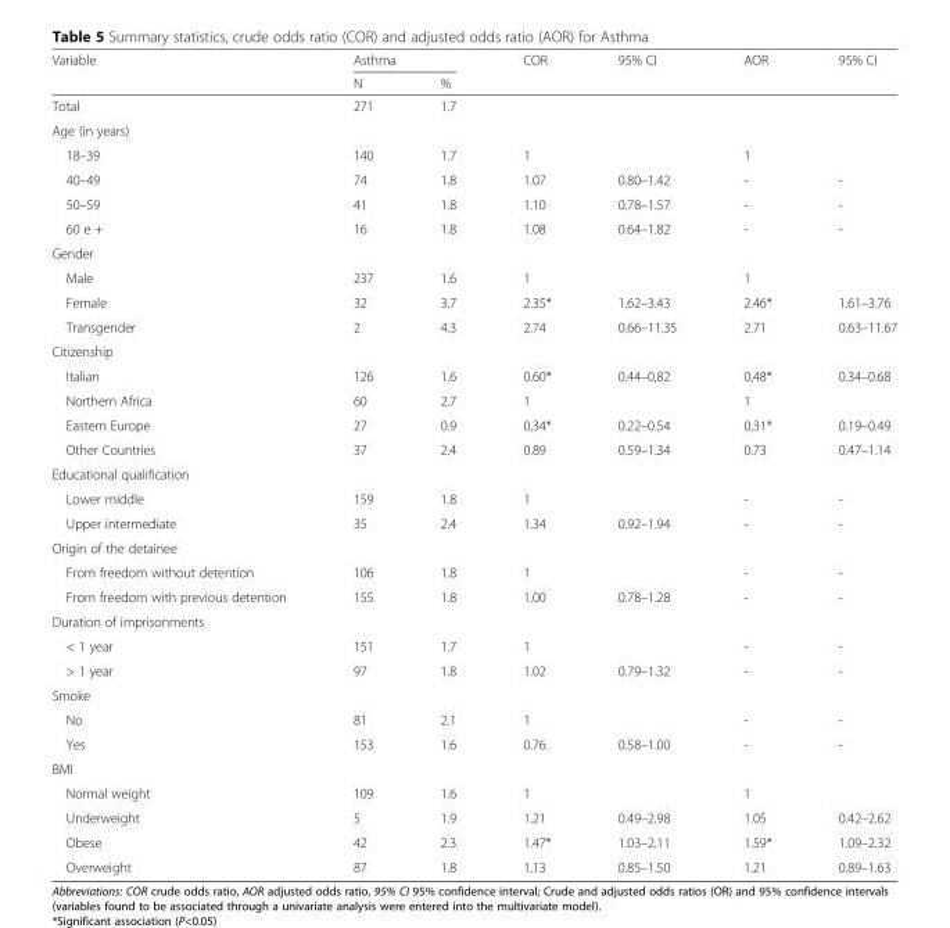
<table><thead><tr><td rowspan="2">Variable</td><td colspan="2">Asthma</td><td rowspan="2">COR</td><td rowspan="2">95% CI</td><td rowspan="2">AOR</td><td rowspan="2">95% CI</td></tr><tr><td>N</td><td>%</td></tr></thead><tbody><tr><td>Total</td><td>271</td><td>1.7</td><td></td><td></td><td></td><td></td></tr><tr><td colspan="7">Age (in years)</td></tr><tr><td>18–39</td><td>140</td><td>1.7</td><td>1</td><td></td><td>1</td><td></td></tr><tr><td>40–49</td><td>74</td><td>1.8</td><td>1.07</td><td>0.80–1.42</td><td>-</td><td>-</td></tr><tr><td>50–59</td><td>41</td><td>1.8</td><td>1.10</td><td>0.78–1.57</td><td>-</td><td>-</td></tr><tr><td>60 e +</td><td>16</td><td>1.8</td><td>1.08</td><td>0.64–1.82</td><td>-</td><td>-</td></tr><tr><td colspan="7">Gender</td></tr><tr><td>Male</td><td>237</td><td>1.6</td><td>1</td><td></td><td>1</td><td></td></tr><tr><td>Female</td><td>32</td><td>3.7</td><td>2.35*</td><td>1.62–3.43</td><td>2.46*</td><td>1.61–3.76</td></tr><tr><td>Transgender</td><td>2</td><td>4.3</td><td>2.74</td><td>0.66–11.35</td><td>2.71</td><td>0.63–11.67</td></tr><tr><td colspan="7">Citizenship</td></tr><tr><td>Italian</td><td>126</td><td>1.6</td><td>0.60*</td><td>0.44–0,82</td><td>0,48*</td><td>0.34–0.68</td></tr><tr><td>Northern Africa</td><td>60</td><td>2.7</td><td>1</td><td></td><td>1</td><td></td></tr><tr><td>Eastern Europe</td><td>27</td><td>0.9</td><td>0,34*</td><td>0.22–0.54</td><td>0,31*</td><td>0.19–0.49</td></tr><tr><td>Other Countries</td><td>37</td><td>2.4</td><td>0.89</td><td>0.59–1.34</td><td>0.73</td><td>0.47–1.14</td></tr><tr><td colspan="7">Educational qualification</td></tr><tr><td>Lower middle</td><td>159</td><td>1.8</td><td>1</td><td></td><td>-</td><td>-</td></tr><tr><td>Upper intermediate</td><td>35</td><td>2.4</td><td>1.34</td><td>0.92–1.94</td><td>-</td><td>-</td></tr><tr><td colspan="7">Origin of the detainee</td></tr><tr><td>From freedom without detention</td><td>106</td><td>1.8</td><td>1</td><td></td><td>-</td><td>-</td></tr><tr><td>From freedom with previous detention</td><td>155</td><td>1.8</td><td>1.00</td><td>0.78–1.28</td><td>-</td><td>-</td></tr><tr><td colspan="7">Duration of imprisonments</td></tr><tr><td>&lt; 1 year</td><td>151</td><td>1.7</td><td>1</td><td></td><td>-</td><td>-</td></tr><tr><td>&gt; 1 year</td><td>97</td><td>1.8</td><td>1.02</td><td>0.79–1.32</td><td>-</td><td>-</td></tr><tr><td colspan="7">Smoke</td></tr><tr><td>No</td><td>81</td><td>2.1</td><td>1</td><td></td><td>-</td><td>-</td></tr><tr><td>Yes</td><td>153</td><td>1.6</td><td>0.76</td><td>0.58–1.00</td><td>-</td><td>-</td></tr><tr><td colspan="7">BMI</td></tr><tr><td>Normal weight</td><td>109</td><td>1.6</td><td>1</td><td></td><td>1</td><td></td></tr><tr><td>Underweight</td><td>5</td><td>1.9</td><td>1.21</td><td>0.49–2.98</td><td>1.05</td><td>0.42–2.62</td></tr><tr><td>Obese</td><td>42</td><td>2.3</td><td>1.47*</td><td>1.03–2.11</td><td>1.59*</td><td>1.09–2.32</td></tr><tr><td>Overweight</td><td>87</td><td>1.8</td><td>1.13</td><td>0.85–1.50</td><td>1.21</td><td>0.89–1.63</td></tr></tbody></table>